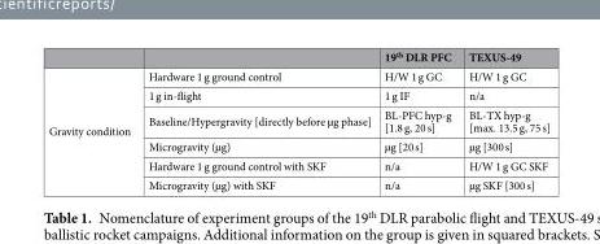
<table><thead><tr><td></td><td></td><td>19<sup>th</sup> DLR PFC</td><td>TEXUS-49</td></tr></thead><tbody><tr><td rowspan="6">Gravity condition</td><td>Hardware 1 g ground control</td><td>H/W 1 g GC</td><td>H/W 1 g GC</td></tr><tr><td>1 g in-flight</td><td>1 g IF</td><td>n/a</td></tr><tr><td>Baseline/Hypergravity [directly before µg phase]</td><td>BL-PFC hyp-g [1.8 g, 20 s]</td><td>BL-TX hyp-g [max. 13.5 g, 75 s]</td></tr><tr><td>Microgravity (µg)</td><td>µg [20 s]</td><td>µg [300 s]</td></tr><tr><td>Hardware 1 g ground control with SKF</td><td>n/a</td><td>H/W 1 g GC SKF</td></tr><tr><td>Microgravity (µg) with SKF</td><td>n/a</td><td>µg SKF [300 s]</td></tr></tbody></table>